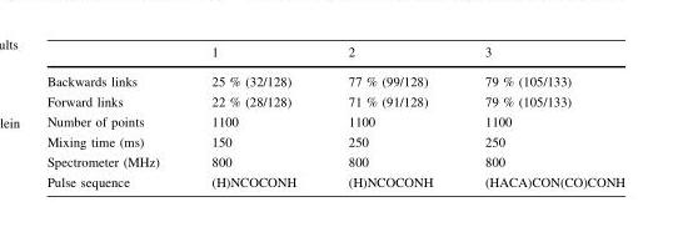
<table><thead><tr><td></td><td>1</td><td>2</td><td>3</td></tr></thead><tbody><tr><td>Backwards links</td><td>25 % (32/128)</td><td>77 % (99/128)</td><td>79 % (105/133)</td></tr><tr><td>Forward links</td><td>22 % (28/128)</td><td>71 % (91/128)</td><td>79 % (105/133)</td></tr><tr><td>Number of points</td><td>1100</td><td>1100</td><td>1100</td></tr><tr><td>Mixing time (ms)</td><td>150</td><td>250</td><td>250</td></tr><tr><td>Spectrometer (MHz)</td><td>800</td><td>800</td><td>800</td></tr><tr><td>Pulse sequence</td><td>(H)NCOCONH</td><td>(H)NCOCONH</td><td>(HACA)CON(CO)CONH</td></tr></tbody></table>